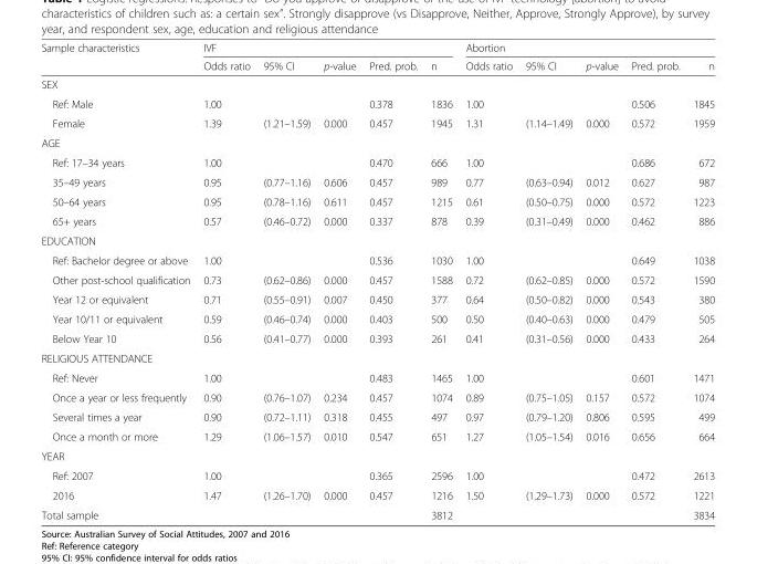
<table><thead><tr><td rowspan="2">Sample characteristics</td><td colspan="5">IVF</td><td colspan="5">Abortion</td></tr><tr><td>Odds ratio</td><td>95% CI</td><td>p-value</td><td>Pred. prob.</td><td>n</td><td>Odds ratio</td><td>95% CI</td><td>p-value</td><td>Pred. prob.</td><td>n</td></tr></thead><tbody><tr><td colspan="11">SEX</td></tr><tr><td>Ref: Male</td><td>1.00</td><td></td><td></td><td>0.378</td><td>1836</td><td>1.00</td><td></td><td></td><td>0.506</td><td>1845</td></tr><tr><td>Female</td><td>1.39</td><td>(1.21–1.59)</td><td>0.000</td><td>0.457</td><td>1945</td><td>1.31</td><td>(1.14–1.49)</td><td>0.000</td><td>0.572</td><td>1959</td></tr><tr><td colspan="11">AGE</td></tr><tr><td>Ref: 17–34 years</td><td>1.00</td><td></td><td></td><td>0.470</td><td>666</td><td>1.00</td><td></td><td></td><td>0.686</td><td>672</td></tr><tr><td>35–49 years</td><td>0.95</td><td>(0.77–1.16)</td><td>0.606</td><td>0.457</td><td>989</td><td>0.77</td><td>(0.63–0.94)</td><td>0.012</td><td>0.627</td><td>987</td></tr><tr><td>50–64 years</td><td>0.95</td><td>(0.78–1.16)</td><td>0.611</td><td>0.457</td><td>1215</td><td>0.61</td><td>(0.50–0.75)</td><td>0.000</td><td>0.572</td><td>1223</td></tr><tr><td>65+ years</td><td>0.57</td><td>(0.46–0.72)</td><td>0.000</td><td>0.337</td><td>878</td><td>0.39</td><td>(0.31–0.49)</td><td>0.000</td><td>0.462</td><td>886</td></tr><tr><td colspan="11">EDUCATION</td></tr><tr><td>Ref: Bachelor degree or above</td><td>1.00</td><td></td><td></td><td>0.536</td><td>1030</td><td>1.00</td><td></td><td></td><td>0.649</td><td>1038</td></tr><tr><td>Other post-school qualification</td><td>0.73</td><td>(0.62–0.86)</td><td>0.000</td><td>0.457</td><td>1588</td><td>0.72</td><td>(0.62–0.85)</td><td>0.000</td><td>0.572</td><td>1590</td></tr><tr><td>Year 12 or equivalent</td><td>0.71</td><td>(0.55–0.91)</td><td>0.007</td><td>0.450</td><td>377</td><td>0.64</td><td>(0.50–0.82)</td><td>0.000</td><td>0.543</td><td>380</td></tr><tr><td>Year 10/11 or equivalent</td><td>0.59</td><td>(0.46–0.74)</td><td>0.000</td><td>0.403</td><td>500</td><td>0.50</td><td>(0.40–0.63)</td><td>0.000</td><td>0.479</td><td>505</td></tr><tr><td>Below Year 10</td><td>0.56</td><td>(0.41–0.77)</td><td>0.000</td><td>0.393</td><td>261</td><td>0.41</td><td>(0.31–0.56)</td><td>0.000</td><td>0.433</td><td>264</td></tr><tr><td colspan="11">RELIGIOUS ATTENDANCE</td></tr><tr><td>Ref: Never</td><td>1.00</td><td></td><td></td><td>0.483</td><td>1465</td><td>1.00</td><td></td><td></td><td>0.601</td><td>1471</td></tr><tr><td>Once a year or less frequently</td><td>0.90</td><td>(0.76–1.07)</td><td>0.234</td><td>0.457</td><td>1074</td><td>0.89</td><td>(0.75–1.05)</td><td>0.157</td><td>0.572</td><td>1074</td></tr><tr><td>Several times a year</td><td>0.90</td><td>(0.72–1.11)</td><td>0.318</td><td>0.455</td><td>497</td><td>0.97</td><td>(0.79–1.20)</td><td>0.806</td><td>0.595</td><td>499</td></tr><tr><td>Once a month or more</td><td>1.29</td><td>(1.06–1.57)</td><td>0.010</td><td>0.547</td><td>651</td><td>1.27</td><td>(1.05–1.54)</td><td>0.016</td><td>0.656</td><td>664</td></tr><tr><td colspan="11">YEAR</td></tr><tr><td>Ref: 2007</td><td>1.00</td><td></td><td></td><td>0.365</td><td>2596</td><td>1.00</td><td></td><td></td><td>0.472</td><td>2613</td></tr><tr><td>2016</td><td>1.47</td><td>(1.26–1.70)</td><td>0.000</td><td>0.457</td><td>1216</td><td>1.50</td><td>(1.29–1.73)</td><td>0.000</td><td>0.572</td><td>1221</td></tr><tr><td>Total sample</td><td></td><td></td><td></td><td></td><td>3812</td><td></td><td></td><td></td><td></td><td>3834</td></tr></tbody></table>